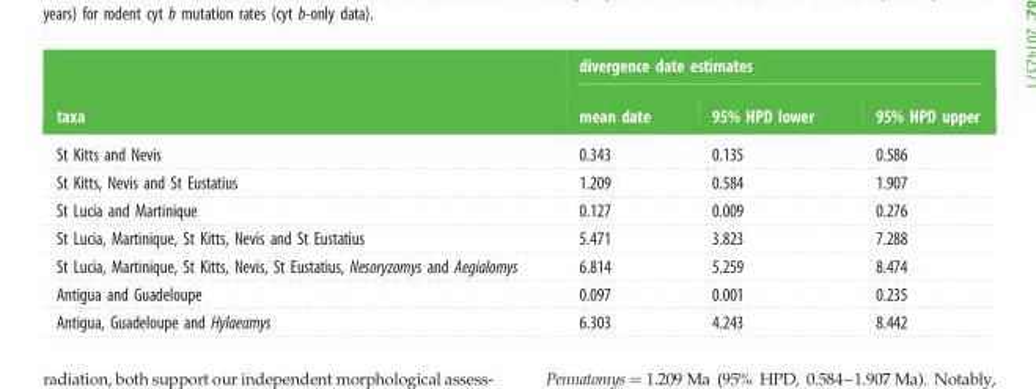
<table><thead><tr><td rowspan="2">taxa</td><td colspan="3">divergence date estimates</td></tr><tr><td>mean date</td><td>95% HPD lower</td><td>95% HPD upper</td></tr></thead><tbody><tr><td>St Kitts and Nevis</td><td>0.343</td><td>0.135</td><td>0.586</td></tr><tr><td>St Kitts, Nevis and St Eustatius</td><td>1.209</td><td>0.584</td><td>1.907</td></tr><tr><td>St Lucia and Martinique</td><td>0.127</td><td>0.009</td><td>0.276</td></tr><tr><td>St Lucia, Martinique, St Kitts, Nevis and St Eustatius</td><td>5.471</td><td>3.823</td><td>7.288</td></tr><tr><td>St Lucia, Martinique, St Kitts, Nevis, St Eustatius, Nesoryzomys and Aegialomys</td><td>6.814</td><td>5.259</td><td>8.474</td></tr><tr><td>Antigua and Guadeloupe</td><td>0.097</td><td>0.001</td><td>0.235</td></tr><tr><td>Antigua, Guadeloupe and Hylaeamys</td><td>6.303</td><td>4.243</td><td>8.442</td></tr></tbody></table>